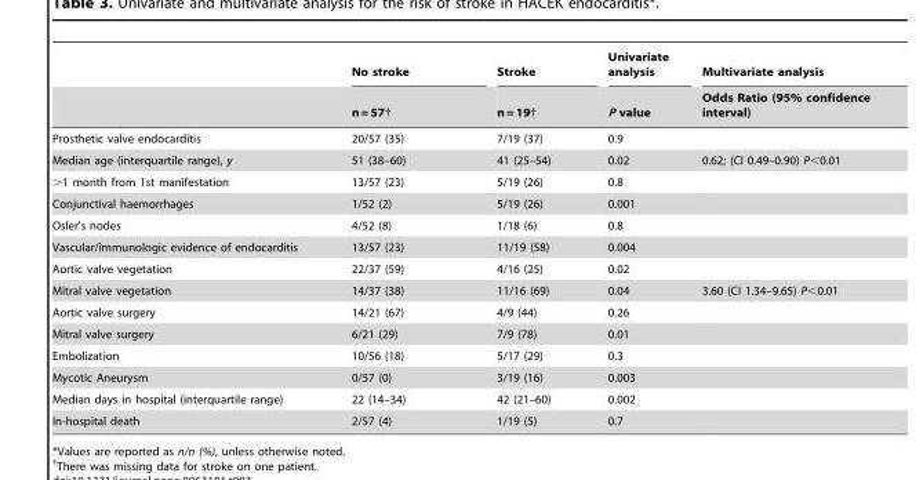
<table><thead><tr><td rowspan="2"></td><td rowspan="2">No stroke n = 57†</td><td rowspan="2">Stroke n = 19†</td><td rowspan="2">Univariate analysis P value</td><td rowspan="2">Multivariate analysis Odds Ratio (95% confidence interval)</td></tr><tr></tr></thead><tbody><tr><td>Prosthetic valve endocarditis</td><td>20/57 (35)</td><td>7/19 (37)</td><td>0.9</td><td></td></tr><tr><td>Median age (interquartile range), y</td><td>51 (38–60)</td><td>41 (25–54)</td><td>0.02</td><td>0.62; (CI 0.49–0.90) P&lt;0.01</td></tr><tr><td>&gt;1 month from 1st manifestation</td><td>13/57 (23)</td><td>5/19 (26)</td><td>0.8</td><td></td></tr><tr><td>Conjunctival haemorrhages</td><td>1/52 (2)</td><td>5/19 (26)</td><td>0.001</td><td></td></tr><tr><td>Osler’s nodes</td><td>4/52 (8)</td><td>1/18 (6)</td><td>0.8</td><td></td></tr><tr><td>Vascular/immunologic evidence of endocarditis</td><td>13/57 (23)</td><td>11/19 (58)</td><td>0.004</td><td></td></tr><tr><td>Aortic valve vegetation</td><td>22/37 (59)</td><td>4/16 (25)</td><td>0.02</td><td></td></tr><tr><td>Mitral valve vegetation</td><td>14/37 (38)</td><td>11/16 (69)</td><td>0.04</td><td>3.60 (CI 1.34–9.65) P&lt;0.01</td></tr><tr><td>Aortic valve surgery</td><td>14/21 (67)</td><td>4/9 (44)</td><td>0.26</td><td></td></tr><tr><td>Mitral valve surgery</td><td>6/21 (29)</td><td>7/9 (78)</td><td>0.01</td><td></td></tr><tr><td>Embolization</td><td>10/56 (18)</td><td>5/17 (29)</td><td>0.3</td><td></td></tr><tr><td>Mycotic Aneurysm</td><td>0/57 (0)</td><td>3/19 (16)</td><td>0.003</td><td></td></tr><tr><td>Median days in hospital (interquartile range)</td><td>22 (14–34)</td><td>42 (21–60)</td><td>0.002</td><td></td></tr><tr><td>In-hospital death</td><td>2/57 (4)</td><td>1/19 (5)</td><td>0.7</td><td></td></tr></tbody></table>